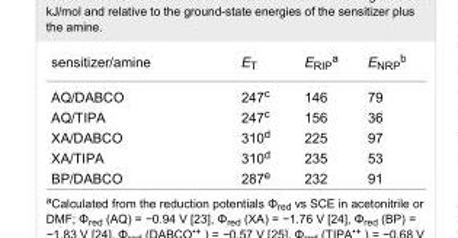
<table><tbody><tr><td>sensitizer/amine</td><td>E<sub>T</sub></td><td>E<sub>RIP</sub><sup>a</sup></td><td>E<sub>NRP</sub><sup>b</sup></td></tr><tr><td>AQ/DABCO</td><td>247<sup>c</sup></td><td>146</td><td>79</td></tr><tr><td>AQ/TIPA</td><td>247<sup>c</sup></td><td>156</td><td>36</td></tr><tr><td>XA/DABCO</td><td>310<sup>d</sup></td><td>225</td><td>97</td></tr><tr><td>XA/TIPA</td><td>310<sup>d</sup></td><td>235</td><td>53</td></tr><tr><td>BP/DABCO</td><td>287<sup>e</sup></td><td>232</td><td>91</td></tr></tbody></table>